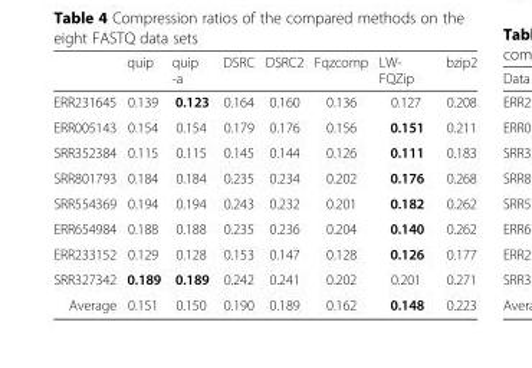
<table><thead><tr><td></td><td>quip</td><td>quip -a</td><td>DSRC</td><td>DSRC2</td><td>Fqzcomp</td><td>LW- FQZip</td><td>bzip2</td></tr></thead><tbody><tr><td>ERR231645</td><td>0.139</td><td>0.123</td><td>0.164</td><td>0.160</td><td>0.136</td><td>0.127</td><td>0.208</td></tr><tr><td>ERR005143</td><td>0.154</td><td>0.154</td><td>0.179</td><td>0.176</td><td>0.156</td><td>0.151</td><td>0.211</td></tr><tr><td>SRR352384</td><td>0.115</td><td>0.115</td><td>0.145</td><td>0.144</td><td>0.126</td><td>0.111</td><td>0.183</td></tr><tr><td>SRR801793</td><td>0.184</td><td>0.184</td><td>0.235</td><td>0.234</td><td>0.202</td><td>0.176</td><td>0.268</td></tr><tr><td>SRR554369</td><td>0.194</td><td>0.194</td><td>0.243</td><td>0.232</td><td>0.201</td><td>0.182</td><td>0.262</td></tr><tr><td>ERR654984</td><td>0.188</td><td>0.188</td><td>0.235</td><td>0.236</td><td>0.204</td><td>0.140</td><td>0.262</td></tr><tr><td>ERR233152</td><td>0.129</td><td>0.128</td><td>0.153</td><td>0.147</td><td>0.128</td><td>0.126</td><td>0.177</td></tr><tr><td>SRR327342</td><td>0.189</td><td>0.189</td><td>0.242</td><td>0.241</td><td>0.202</td><td>0.201</td><td>0.271</td></tr><tr><td>Average</td><td>0.151</td><td>0.150</td><td>0.190</td><td>0.189</td><td>0.162</td><td>0.148</td><td>0.223</td></tr></tbody></table>